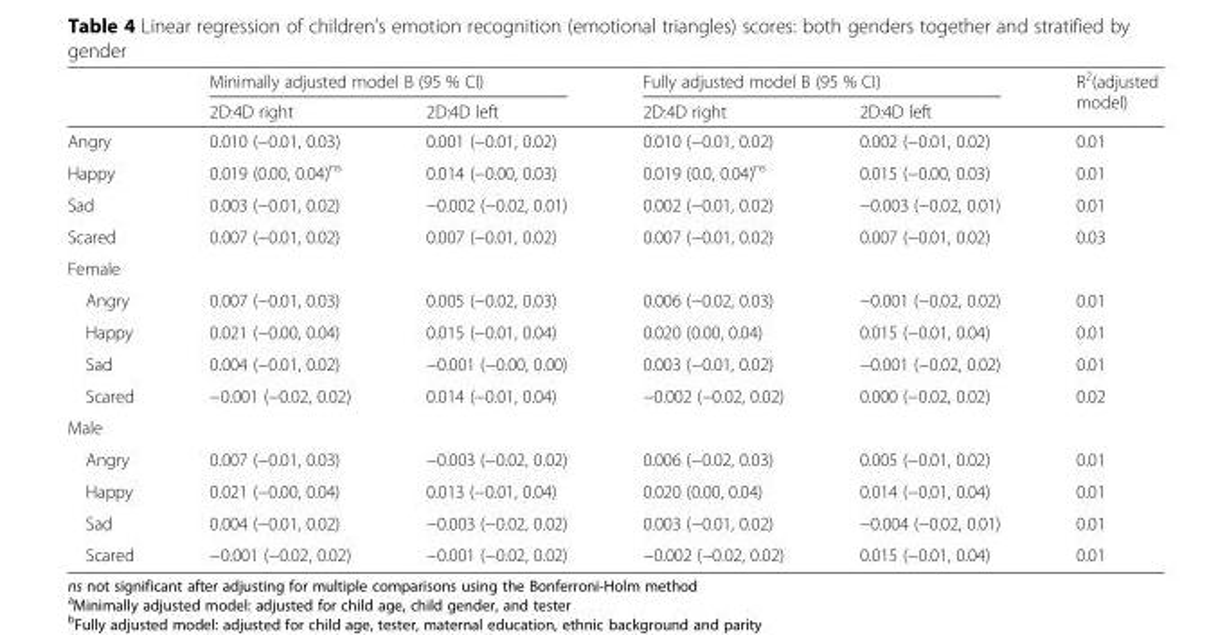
<table><thead><tr><td rowspan="2"></td><td colspan="2">Minimally adjusted model B (95 % CI)</td><td colspan="2">Fully adjusted model B (95 % CI)</td><td rowspan="2">R<sup>2</sup>(adjusted model)</td></tr><tr><td>2D:4D right</td><td>2D:4D left</td><td>2D:4D right</td><td>2D:4D left</td></tr></thead><tbody><tr><td>Angry</td><td>0.010 (−0.01, 0.03)</td><td>0.001 (−0.01, 0.02)</td><td>0.010 (−0.01, 0.02)</td><td>0.002 (−0.01, 0.02)</td><td>0.01</td></tr><tr><td>Happy</td><td>0.019 (0.00, 0.04)<sup>ns</sup></td><td>0.014 (−0.00, 0.03)</td><td>0.019 (0.0, 0.04)<sup>ns</sup></td><td>0.015 (−0.00, 0.03)</td><td>0.01</td></tr><tr><td>Sad</td><td>0.003 (−0.01, 0.02)</td><td>−0.002 (−0.02, 0.01)</td><td>0.002 (−0.01, 0.02)</td><td>−0.003 (−0.02, 0.01)</td><td>0.01</td></tr><tr><td>Scared</td><td>0.007 (−0.01, 0.02)</td><td>0.007 (−0.01, 0.02)</td><td>0.007 (−0.01, 0.02)</td><td>0.007 (−0.01, 0.02)</td><td>0.03</td></tr><tr><td colspan="6">Female</td></tr><tr><td>Angry</td><td>0.007 (−0.01, 0.03)</td><td>0.005 (−0.02, 0.03)</td><td>0.006 (−0.02, 0.03)</td><td>−0.001 (−0.02, 0.02)</td><td>0.01</td></tr><tr><td>Happy</td><td>0.021 (−0.00, 0.04)</td><td>0.015 (−0.01, 0.04)</td><td>0.020 (0.00, 0.04)</td><td>0.015 (−0.01, 0.04)</td><td>0.01</td></tr><tr><td>Sad</td><td>0.004 (−0.01, 0.02)</td><td>−0.001 (−0.00, 0.00)</td><td>0.003 (−0.01, 0.02)</td><td>−0.001 (−0.02, 0.02)</td><td>0.01</td></tr><tr><td>Scared</td><td>−0.001 (−0.02, 0.02)</td><td>0.014 (−0.01, 0.04)</td><td>−0.002 (−0.02, 0.02)</td><td>0.000 (−0.02, 0.02)</td><td>0.02</td></tr><tr><td colspan="6">Male</td></tr><tr><td>Angry</td><td>0.007 (−0.01, 0.03)</td><td>−0.003 (−0.02, 0.02)</td><td>0.006 (−0.02, 0.03)</td><td>0.005 (−0.01, 0.02)</td><td>0.01</td></tr><tr><td>Happy</td><td>0.021 (−0.00, 0.04)</td><td>0.013 (−0.01, 0.04)</td><td>0.020 (0.00, 0.04)</td><td>0.014 (−0.01, 0.04)</td><td>0.01</td></tr><tr><td>Sad</td><td>0.004 (−0.01, 0.02)</td><td>−0.003 (−0.02, 0.02)</td><td>0.003 (−0.01, 0.02)</td><td>−0.004 (−0.02, 0.01)</td><td>0.01</td></tr><tr><td>Scared</td><td>−0.001 (−0.02, 0.02)</td><td>−0.001 (−0.02, 0.02)</td><td>−0.002 (−0.02, 0.02)</td><td>0.015 (−0.01, 0.04)</td><td>0.01</td></tr></tbody></table>